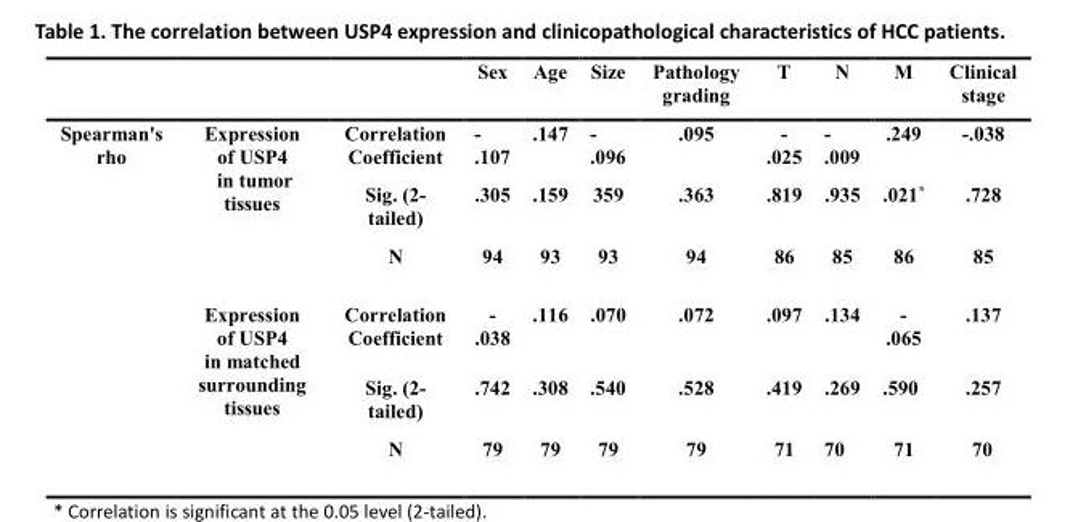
<table><thead><tr><td></td><td></td><td></td><td>Sex</td><td>Age</td><td>Size</td><td>Pathology grading</td><td>T</td><td>N</td><td>M</td><td>Clinical stage</td></tr></thead><tbody><tr><td rowspan="6">Spearman&#x27;s rho</td><td rowspan="3">Expression of USP4 in tumor tissues</td><td>Correlation Coefficient</td><td>- .107</td><td>.147</td><td>- .096</td><td>.095</td><td>- .025</td><td>- .009</td><td>.249</td><td>-.038</td></tr><tr><td>Sig. (2- tailed)</td><td>.305</td><td>.159</td><td>359</td><td>.363</td><td>.819</td><td>.935</td><td>.021*</td><td>.728</td></tr><tr><td>N</td><td>94</td><td>93</td><td>93</td><td>94</td><td>86</td><td>85</td><td>86</td><td>85</td></tr><tr><td rowspan="3">Expression of USP4 in matched surrounding tissues</td><td>Correlation Coefficient</td><td>- .038</td><td>.116</td><td>.070</td><td>.072</td><td>.097</td><td>.134</td><td>- .065</td><td>.137</td></tr><tr><td>Sig. (2- tailed)</td><td>.742</td><td>.308</td><td>.540</td><td>.528</td><td>.419</td><td>.269</td><td>.590</td><td>.257</td></tr><tr><td>N</td><td>79</td><td>79</td><td>79</td><td>79</td><td>71</td><td>70</td><td>71</td><td>70</td></tr></tbody></table>